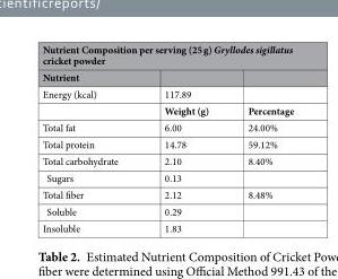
<table><thead><tr><td colspan="3">Nutrient Composition per serving (25 g) Gryllodes sigillatus cricket powder</td></tr><tr><td>Nutrient</td><td></td><td></td></tr></thead><tbody><tr><td rowspan="2">Energy (kcal)</td><td>117.89</td><td></td></tr><tr><td>Weight (g)</td><td>Percentage</td></tr><tr><td>Total fat</td><td>6.00</td><td>24.00%</td></tr><tr><td>Total protein</td><td>14.78</td><td>59.12%</td></tr><tr><td>Total carbohydrate</td><td>2.10</td><td>8.40%</td></tr><tr><td>Sugars</td><td>0.13</td><td></td></tr><tr><td>Total fiber</td><td>2.12</td><td>8.48%</td></tr><tr><td>Soluble</td><td>0.29</td><td></td></tr><tr><td>Insoluble</td><td>1.83</td><td></td></tr></tbody></table>